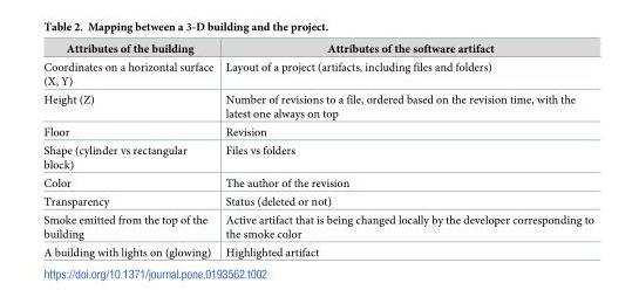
<table><thead><tr><td>Attributes of the building</td><td>Attributes of the software artifact</td></tr></thead><tbody><tr><td>Coordinates on a horizontal surface (X, Y)</td><td>Layout of a project (artifacts, including files and folders)</td></tr><tr><td>Height (Z)</td><td>Number of revisions to a file, ordered based on the revision time, with the latest one always on top</td></tr><tr><td>Floor</td><td>Revision</td></tr><tr><td>Shape (cylinder vs rectangular block)</td><td>Files vs folders</td></tr><tr><td>Color</td><td>The author of the revision</td></tr><tr><td>Transparency</td><td>Status (deleted or not)</td></tr><tr><td>Smoke emitted from the top of the building</td><td>Active artifact that is being changed locally by the developer corresponding to the smoke color</td></tr><tr><td>A building with lights on (glowing)</td><td>Highlighted artifact</td></tr></tbody></table>